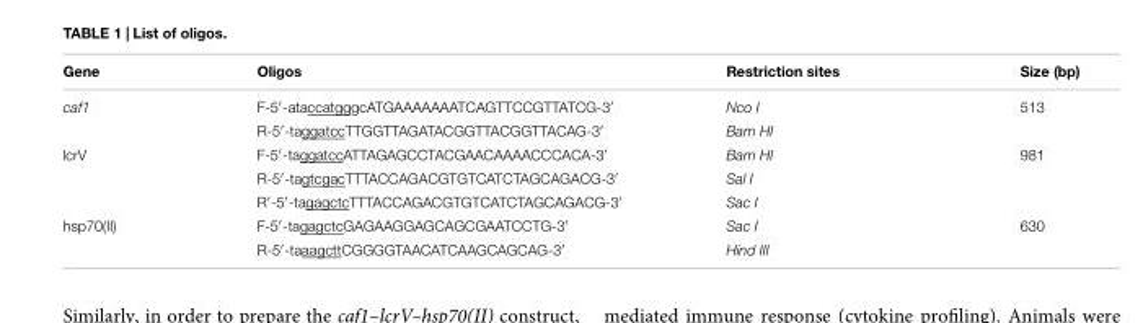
<table><thead><tr><td>Gene</td><td>Oligos</td><td>Restriction sites</td><td>Size (bp)</td></tr></thead><tbody><tr><td rowspan="2">caf1</td><td>F-5′-ataccatgggcATGAAAAAAATCAGTTCCGTTATCG-3′</td><td>Nco I</td><td>513</td></tr><tr><td>R-5′-taggatccTTGGTTAGATACGGTTACGGTTACAG-3′</td><td>Bam HI</td><td></td></tr><tr><td rowspan="3">lcrV</td><td>F-5′-taggatccATTAGAGCCTACGAACAAAACCCACA-3′</td><td>Bam HI</td><td>981</td></tr><tr><td>R-5′-tagtcgacTTTACCAGACGTGTCATCTAGCAGACG-3′</td><td>Sal I</td><td></td></tr><tr><td>R′-5′-tagagctcTTTACCAGACGTGTCATCTAGCAGACG-3′</td><td>Sac I</td><td></td></tr><tr><td rowspan="2">hsp70(II)</td><td>F-5′-tagagctcGAGAAGGAGCAGCGAATCCTG-3′</td><td>Sac I</td><td>630</td></tr><tr><td>R-5′-taaagcttCGGGGTAACATCAAGCAGCAG-3′</td><td>Hind III</td><td></td></tr></tbody></table>